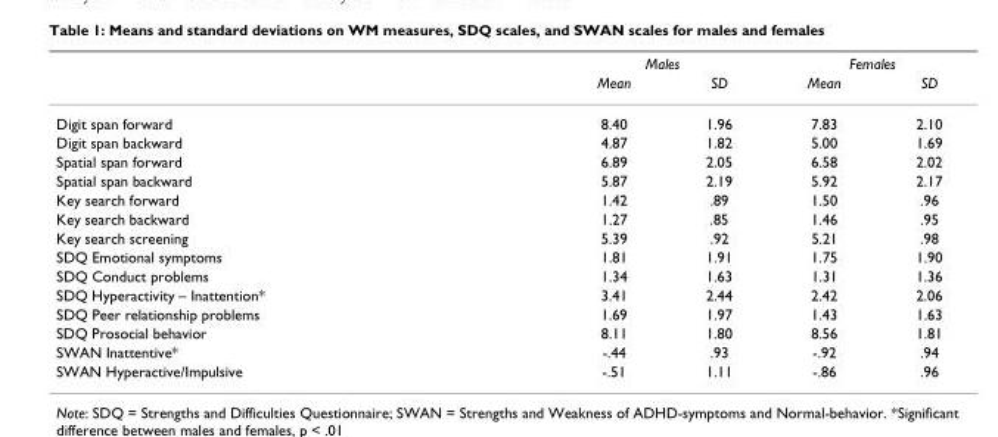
<table><thead><tr><td rowspan="2"></td><td colspan="2">Males</td><td colspan="2">Females</td></tr><tr><td>Mean</td><td>SD</td><td>Mean</td><td>SD</td></tr></thead><tbody><tr><td>Digit span forward</td><td>8.40</td><td>1.96</td><td>7.83</td><td>2.10</td></tr><tr><td>Digit span backward</td><td>4.87</td><td>1.82</td><td>5.00</td><td>1.69</td></tr><tr><td>Spatial span forward</td><td>6.89</td><td>2.05</td><td>6.58</td><td>2.02</td></tr><tr><td>Spatial span backward</td><td>5.87</td><td>2.19</td><td>5.92</td><td>2.17</td></tr><tr><td>Key search forward</td><td>1.42</td><td>.89</td><td>1.50</td><td>.96</td></tr><tr><td>Key search backward</td><td>1.27</td><td>.85</td><td>1.46</td><td>.95</td></tr><tr><td>Key search screening</td><td>5.39</td><td>.92</td><td>5.21</td><td>.98</td></tr><tr><td>SDQ Emotional symptoms</td><td>1.81</td><td>1.91</td><td>1.75</td><td>1.90</td></tr><tr><td>SDQ Conduct problems</td><td>1.34</td><td>1.63</td><td>1.31</td><td>1.36</td></tr><tr><td>SDQ Hyperactivity – Inattention*</td><td>3.41</td><td>2.44</td><td>2.42</td><td>2.06</td></tr><tr><td>SDQ Peer relationship problems</td><td>1.69</td><td>1.97</td><td>1.43</td><td>1.63</td></tr><tr><td>SDQ Prosocial behavior</td><td>8.11</td><td>1.80</td><td>8.56</td><td>1.81</td></tr><tr><td>SWAN Inattentive*</td><td>-.44</td><td>.93</td><td>-.92</td><td>.94</td></tr><tr><td>SWAN Hyperactive/Impulsive</td><td>-.51</td><td>1.11</td><td>-.86</td><td>.96</td></tr></tbody></table>